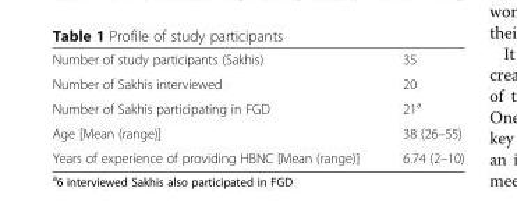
<table><tbody><tr><td>Number of study participants (Sakhis)</td><td>35</td></tr><tr><td>Number of Sakhis interviewed</td><td>20</td></tr><tr><td>Number of Sakhis participating in FGD</td><td>21<sup>a</sup></td></tr><tr><td>Age [Mean (range)]</td><td>38 (26–55)</td></tr><tr><td>Years of experience of providing HBNC [Mean (range)]</td><td>6.74 (2–10)</td></tr></tbody></table>